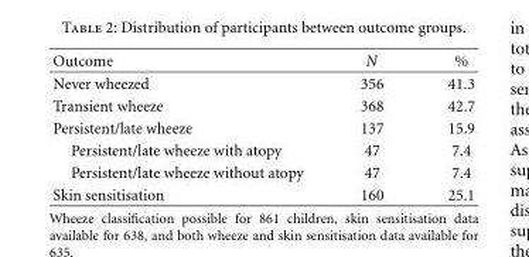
<table><thead><tr><td>Outcome</td><td>N</td><td>%</td></tr></thead><tbody><tr><td>Never wheezed</td><td>356</td><td>41.3</td></tr><tr><td>Transient wheeze</td><td>368</td><td>42.7</td></tr><tr><td>Persistent/late wheeze</td><td>137</td><td>15.9</td></tr><tr><td>Persistent/late wheeze with atopy</td><td>47</td><td>7.4</td></tr><tr><td>Persistent/late wheeze without atopy</td><td>47</td><td>7.4</td></tr><tr><td>Skin sensitisation</td><td>160</td><td>25.1</td></tr></tbody></table>